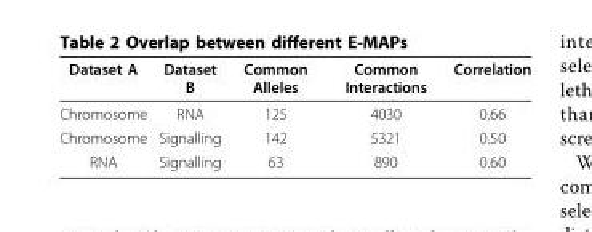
<table><thead><tr><td>Dataset A</td><td>Dataset B</td><td>Common Alleles</td><td>Common Interactions</td><td>Correlation</td></tr></thead><tbody><tr><td>Chromosome</td><td>RNA</td><td>125</td><td>4030</td><td>0.66</td></tr><tr><td>Chromosome</td><td>Signalling</td><td>142</td><td>5321</td><td>0.50</td></tr><tr><td>RNA</td><td>Signalling</td><td>63</td><td>890</td><td>0.60</td></tr></tbody></table>